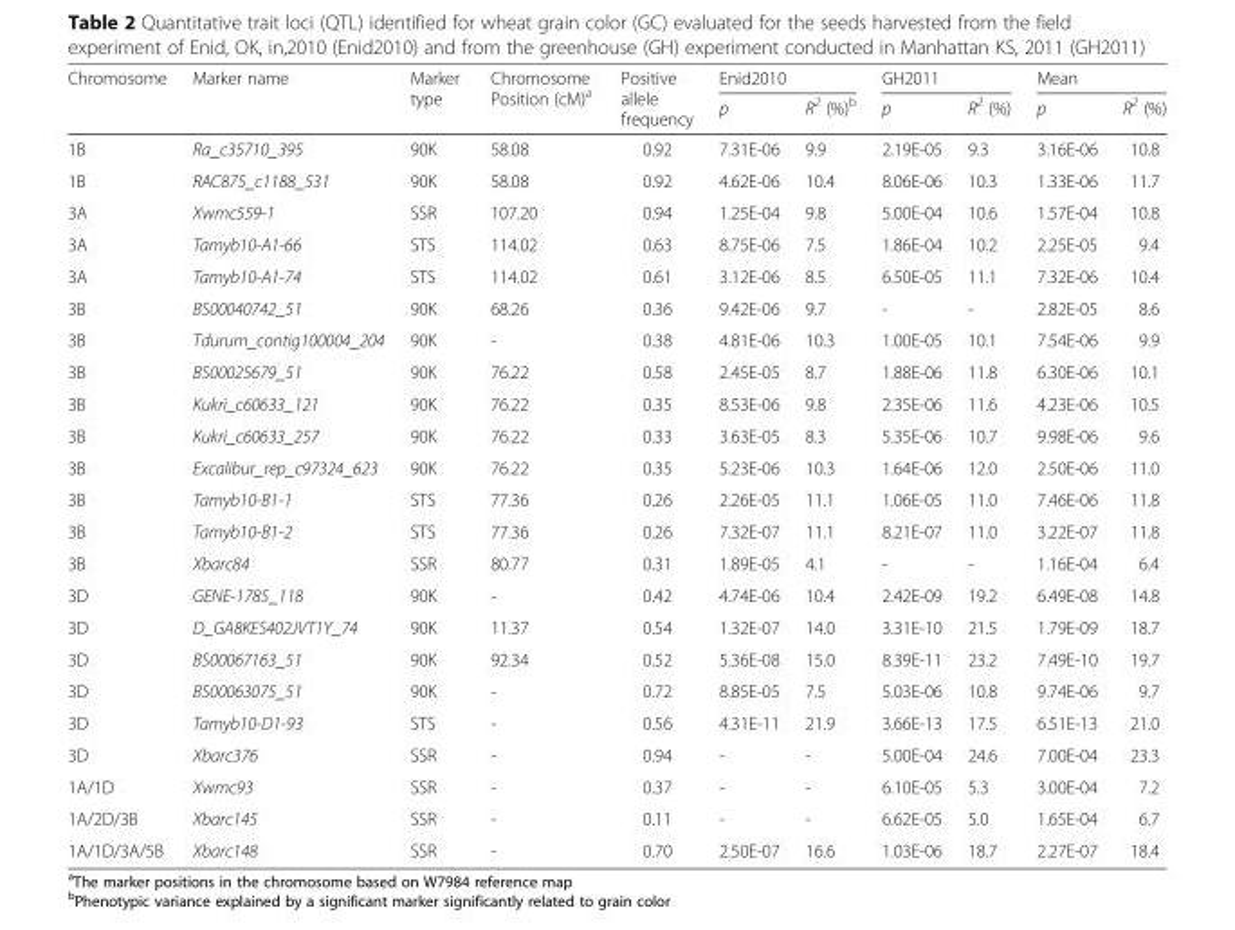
<table><thead><tr><td rowspan="2">Chromosome</td><td rowspan="2">Marker name</td><td rowspan="2">Marker type</td><td rowspan="2">Chromosome Position (cM)<sup>a</sup></td><td rowspan="2">Positive allele frequency</td><td colspan="2">Enid2010</td><td colspan="2">GH2011</td><td colspan="2">Mean</td></tr><tr><td>p</td><td>R<sup>2</sup> (%)<sup>b</sup></td><td>p</td><td>R<sup>2</sup> (%)</td><td>p</td><td>R<sup>2</sup> (%)</td></tr></thead><tbody><tr><td>1B</td><td>Ra_c35710_395</td><td>90K</td><td>58.08</td><td>0.92</td><td>7.31E-06</td><td>9.9</td><td>2.19E-05</td><td>9.3</td><td>3.16E-06</td><td>10.8</td></tr><tr><td>1B</td><td>RAC875_c1188_531</td><td>90K</td><td>58.08</td><td>0.92</td><td>4.62E-06</td><td>10.4</td><td>8.06E-06</td><td>10.3</td><td>1.33E-06</td><td>11.7</td></tr><tr><td>3A</td><td>Xwmc559-1</td><td>SSR</td><td>107.20</td><td>0.94</td><td>1.25E-04</td><td>9.8</td><td>5.00E-04</td><td>10.6</td><td>1.57E-04</td><td>10.8</td></tr><tr><td>3A</td><td>Tamyb10-A1-66</td><td>STS</td><td>114.02</td><td>0.63</td><td>8.75E-06</td><td>7.5</td><td>1.86E-04</td><td>10.2</td><td>2.25E-05</td><td>9.4</td></tr><tr><td>3A</td><td>Tamyb10-A1-74</td><td>STS</td><td>114.02</td><td>0.61</td><td>3.12E-06</td><td>8.5</td><td>6.50E-05</td><td>11.1</td><td>7.32E-06</td><td>10.4</td></tr><tr><td>3B</td><td>BS00040742_51</td><td>90K</td><td>68.26</td><td>0.36</td><td>9.42E-06</td><td>9.7</td><td>-</td><td>-</td><td>2.82E-05</td><td>8.6</td></tr><tr><td>3B</td><td>Tdurum_contig100004_204</td><td>90K</td><td>-</td><td>0.38</td><td>4.81E-06</td><td>10.3</td><td>1.00E-05</td><td>10.1</td><td>7.54E-06</td><td>9.9</td></tr><tr><td>3B</td><td>BS00025679_51</td><td>90K</td><td>76.22</td><td>0.58</td><td>2.45E-05</td><td>8.7</td><td>1.88E-06</td><td>11.8</td><td>6.30E-06</td><td>10.1</td></tr><tr><td>3B</td><td>Kukri_c60633_121</td><td>90K</td><td>76.22</td><td>0.35</td><td>8.53E-06</td><td>9.8</td><td>2.35E-06</td><td>11.6</td><td>4.23E-06</td><td>10.5</td></tr><tr><td>3B</td><td>Kukri_c60633_257</td><td>90K</td><td>76.22</td><td>0.33</td><td>3.63E-05</td><td>8.3</td><td>5.35E-06</td><td>10.7</td><td>9.98E-06</td><td>9.6</td></tr><tr><td>3B</td><td>Excalibur_rep_c97324_623</td><td>90K</td><td>76.22</td><td>0.35</td><td>5.23E-06</td><td>10.3</td><td>1.64E-06</td><td>12.0</td><td>2.50E-06</td><td>11.0</td></tr><tr><td>3B</td><td>Tamyb10-B1-1</td><td>STS</td><td>77.36</td><td>0.26</td><td>2.26E-05</td><td>11.1</td><td>1.06E-05</td><td>11.0</td><td>7.46E-06</td><td>11.8</td></tr><tr><td>3B</td><td>Tamyb10-B1-2</td><td>STS</td><td>77.36</td><td>0.26</td><td>7.32E-07</td><td>11.1</td><td>8.21E-07</td><td>11.0</td><td>3.22E-07</td><td>11.8</td></tr><tr><td>3B</td><td>Xbarc84</td><td>SSR</td><td>80.77</td><td>0.31</td><td>1.89E-05</td><td>4.1</td><td>-</td><td>-</td><td>1.16E-04</td><td>6.4</td></tr><tr><td>3D</td><td>GENE-1785_118</td><td>90K</td><td>-</td><td>0.42</td><td>4.74E-06</td><td>10.4</td><td>2.42E-09</td><td>19.2</td><td>6.49E-08</td><td>14.8</td></tr><tr><td>3D</td><td>D_GA8KES402JVT1Y_74</td><td>90K</td><td>11.37</td><td>0.54</td><td>1.32E-07</td><td>14.0</td><td>3.31E-10</td><td>21.5</td><td>1.79E-09</td><td>18.7</td></tr><tr><td>3D</td><td>BS00067163_51</td><td>90K</td><td>92.34</td><td>0.52</td><td>5.36E-08</td><td>15.0</td><td>8.39E-11</td><td>23.2</td><td>7.49E-10</td><td>19.7</td></tr><tr><td>3D</td><td>BS00063075_51</td><td>90K</td><td>-</td><td>0.72</td><td>8.85E-05</td><td>7.5</td><td>5.03E-06</td><td>10.8</td><td>9.74E-06</td><td>9.7</td></tr><tr><td>3D</td><td>Tamyb10-D1-93</td><td>STS</td><td>-</td><td>0.56</td><td>4.31E-11</td><td>21.9</td><td>3.66E-13</td><td>17.5</td><td>6.51E-13</td><td>21.0</td></tr><tr><td>3D</td><td>Xbarc376</td><td>SSR</td><td>-</td><td>0.94</td><td>-</td><td>-</td><td>5.00E-04</td><td>24.6</td><td>7.00E-04</td><td>23.3</td></tr><tr><td>1A/1D</td><td>Xwmc93</td><td>SSR</td><td>-</td><td>0.37</td><td>-</td><td>-</td><td>6.10E-05</td><td>5.3</td><td>3.00E-04</td><td>7.2</td></tr><tr><td>1A/2D/3B</td><td>Xbarc145</td><td>SSR</td><td>-</td><td>0.11</td><td>-</td><td>-</td><td>6.62E-05</td><td>5.0</td><td>1.65E-04</td><td>6.7</td></tr><tr><td>1A/1D/3A/5B</td><td>Xbarc148</td><td>SSR</td><td>-</td><td>0.70</td><td>2.50E-07</td><td>16.6</td><td>1.03E-06</td><td>18.7</td><td>2.27E-07</td><td>18.4</td></tr></tbody></table>